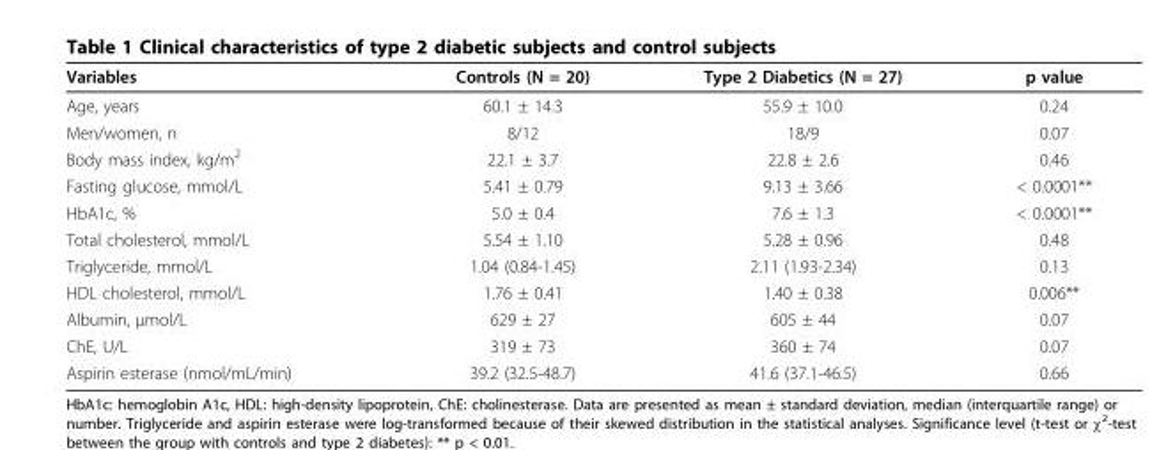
<table><thead><tr><td>Variables</td><td>Controls (N = 20)</td><td>Type 2 Diabetics (N = 27)</td><td>p value</td></tr></thead><tbody><tr><td>Age, years</td><td>60.1 ± 14.3</td><td>55.9 ± 10.0</td><td>0.24</td></tr><tr><td>Men/women, n</td><td>8/12</td><td>18/9</td><td>0.07</td></tr><tr><td>Body mass index, kg/m<sup>2</sup></td><td>22.1 ± 3.7</td><td>22.8 ± 2.6</td><td>0.46</td></tr><tr><td>Fasting glucose, mmol/L</td><td>5.41 ± 0.79</td><td>9.13 ± 3.66</td><td>&lt; 0.0001**</td></tr><tr><td>HbA1c, %</td><td>5.0 ± 0.4</td><td>7.6 ± 1.3</td><td>&lt; 0.0001**</td></tr><tr><td>Total cholesterol, mmol/L</td><td>5.54 ± 1.10</td><td>5.28 ± 0.96</td><td>0.48</td></tr><tr><td>Triglyceride, mmol/L</td><td>1.04 (0.84-1.45)</td><td>2.11 (1.93-2.34)</td><td>0.13</td></tr><tr><td>HDL cholesterol, mmol/L</td><td>1.76 ± 0.41</td><td>1.40 ± 0.38</td><td>0.006**</td></tr><tr><td>Albumin, μmol/L</td><td>629 ± 27</td><td>605 ± 44</td><td>0.07</td></tr><tr><td>ChE, U/L</td><td>319 ± 73</td><td>360 ± 74</td><td>0.07</td></tr><tr><td>Aspirin esterase (nmol/mL/min)</td><td>39.2 (32.5-48.7)</td><td>41.6 (37.1-46.5)</td><td>0.66</td></tr></tbody></table>